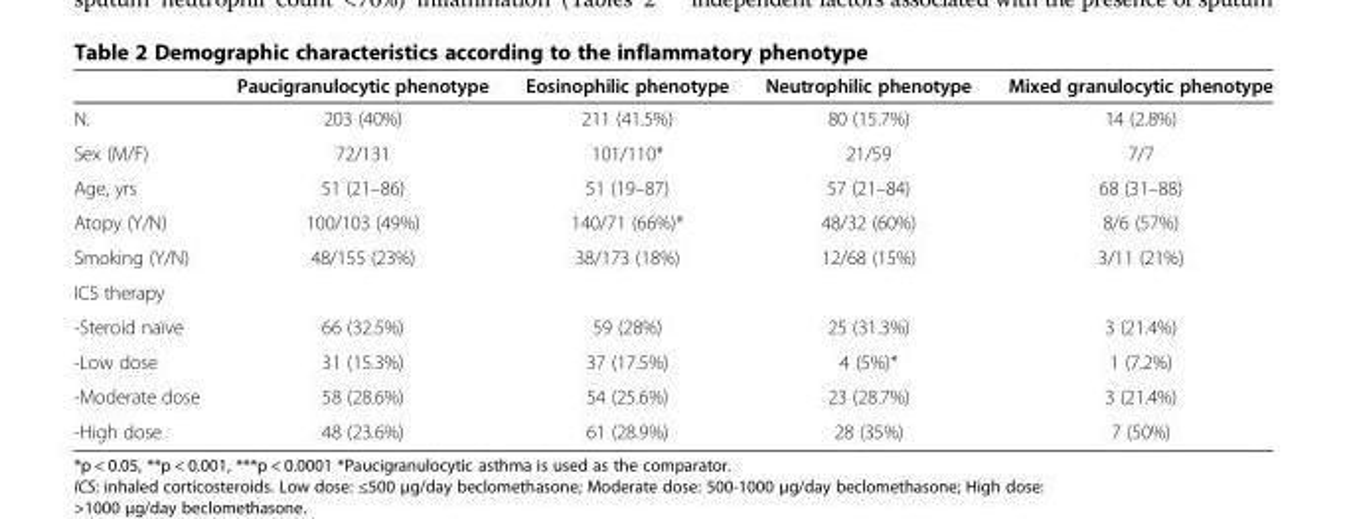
<table><thead><tr><td></td><td>Paucigranulocytic phenotype</td><td>Eosinophilic phenotype</td><td>Neutrophilic phenotype</td><td>Mixed granulocytic phenotype</td></tr></thead><tbody><tr><td>N.</td><td>203 (40%)</td><td>211 (41.5%)</td><td>80 (15.7%)</td><td>14 (2.8%)</td></tr><tr><td>Sex (M/F)</td><td>72/131</td><td>101/110*</td><td>21/59</td><td>7/7</td></tr><tr><td>Age, yrs</td><td>51 (21–86)</td><td>51 (19–87)</td><td>57 (21–84)</td><td>68 (31–88)</td></tr><tr><td>Atopy (Y/N)</td><td>100/103 (49%)</td><td>140/71 (66%)*</td><td>48/32 (60%)</td><td>8/6 (57%)</td></tr><tr><td>Smoking (Y/N)</td><td>48/155 (23%)</td><td>38/173 (18%)</td><td>12/68 (15%)</td><td>3/11 (21%)</td></tr><tr><td colspan="5">ICS therapy</td></tr><tr><td>-Steroid naïve</td><td>66 (32.5%)</td><td>59 (28%)</td><td>25 (31.3%)</td><td>3 (21.4%)</td></tr><tr><td>-Low dose</td><td>31 (15.3%)</td><td>37 (17.5%)</td><td>4 (5%)*</td><td>1 (7.2%)</td></tr><tr><td>-Moderate dose</td><td>58 (28.6%)</td><td>54 (25.6%)</td><td>23 (28.7%)</td><td>3 (21.4%)</td></tr><tr><td>-High dose</td><td>48 (23.6%)</td><td>61 (28.9%)</td><td>28 (35%)</td><td>7 (50%)</td></tr></tbody></table>